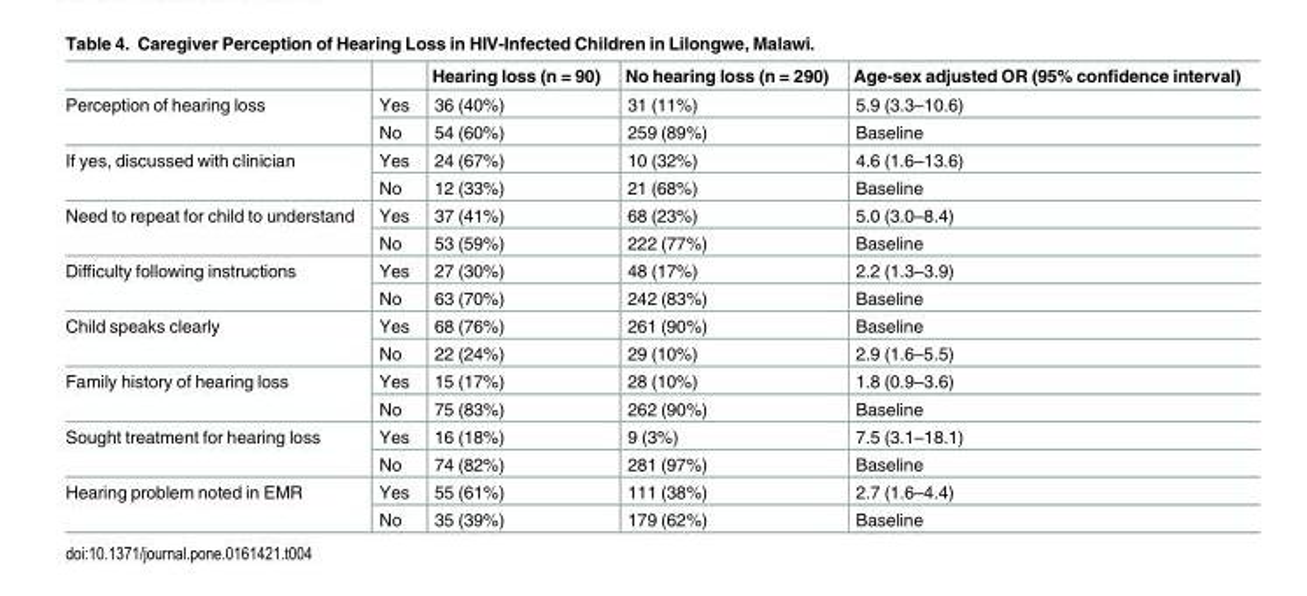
<table><thead><tr><td></td><td></td><td>Hearing loss (n = 90)</td><td>No hearing loss (n = 290)</td><td>Age-sex adjusted OR (95% confidence interval)</td></tr></thead><tbody><tr><td rowspan="2">Perception of hearing loss</td><td>Yes</td><td>36 (40%)</td><td>31 (11%)</td><td>5.9 (3.3–10.6)</td></tr><tr><td>No</td><td>54 (60%)</td><td>259 (89%)</td><td>Baseline</td></tr><tr><td rowspan="2">If yes, discussed with clinician</td><td>Yes</td><td>24 (67%)</td><td>10 (32%)</td><td>4.6 (1.6–13.6)</td></tr><tr><td>No</td><td>12 (33%)</td><td>21 (68%)</td><td>Baseline</td></tr><tr><td rowspan="2">Need to repeat for child to understand</td><td>Yes</td><td>37 (41%)</td><td>68 (23%)</td><td>5.0 (3.0–8.4)</td></tr><tr><td>No</td><td>53 (59%)</td><td>222 (77%)</td><td>Baseline</td></tr><tr><td rowspan="2">Difficulty following instructions</td><td>Yes</td><td>27 (30%)</td><td>48 (17%)</td><td>2.2 (1.3–3.9)</td></tr><tr><td>No</td><td>63 (70%)</td><td>242 (83%)</td><td>Baseline</td></tr><tr><td rowspan="2">Child speaks clearly</td><td>Yes</td><td>68 (76%)</td><td>261 (90%)</td><td>Baseline</td></tr><tr><td>No</td><td>22 (24%)</td><td>29 (10%)</td><td>2.9 (1.6–5.5)</td></tr><tr><td rowspan="2">Family history of hearing loss</td><td>Yes</td><td>15 (17%)</td><td>28 (10%)</td><td>1.8 (0.9–3.6)</td></tr><tr><td>No</td><td>75 (83%)</td><td>262 (90%)</td><td>Baseline</td></tr><tr><td rowspan="2">Sought treatment for hearing loss</td><td>Yes</td><td>16 (18%)</td><td>9 (3%)</td><td>7.5 (3.1–18.1)</td></tr><tr><td>No</td><td>74 (82%)</td><td>281 (97%)</td><td>Baseline</td></tr><tr><td rowspan="2">Hearing problem noted in EMR</td><td>Yes</td><td>55 (61%)</td><td>111 (38%)</td><td>2.7 (1.6–4.4)</td></tr><tr><td>No</td><td>35 (39%)</td><td>179 (62%)</td><td>Baseline</td></tr></tbody></table>